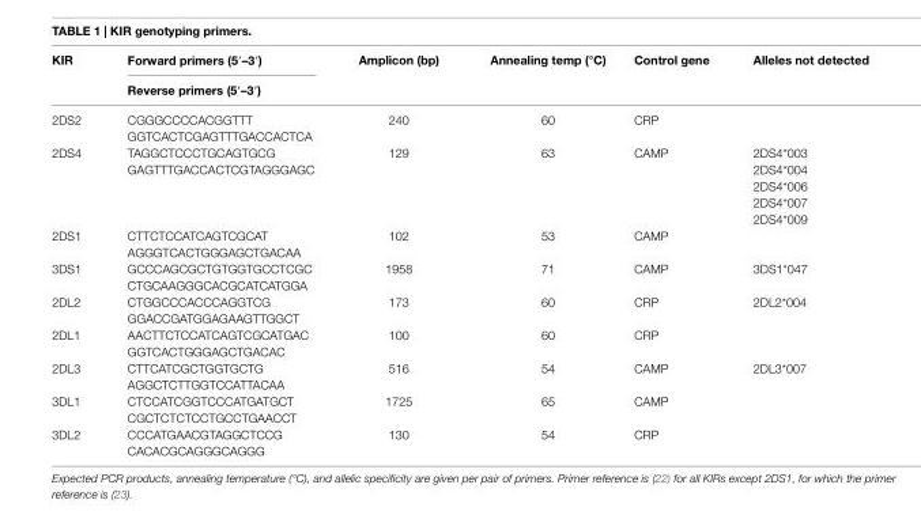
<table><thead><tr><td rowspan="2">Kir</td><td rowspan="2">Forward primers (5′–3′) reverse primers (5′–3′)</td><td rowspan="2">amplicon (bp)</td><td rowspan="2">annealing temp (°c)</td><td rowspan="2">control gene</td><td rowspan="2">alleles not detected</td></tr><tr></tr></thead><tbody><tr><td rowspan="2">2DS2</td><td>CGGGCCCCACGGTTT</td><td rowspan="2">240</td><td rowspan="2">60</td><td rowspan="2">CRP</td><td rowspan="2"></td></tr><tr><td>GGTCACTCGAGTTTGACCACTCA</td></tr><tr><td rowspan="5">2DS4</td><td>TAGGCTCCCTGCAGTGCG</td><td rowspan="5">129</td><td rowspan="5">63</td><td rowspan="5">CAMP</td><td>2DS4*003</td></tr><tr><td>GAGTTTGACCACTCGTAGGGAGC</td><td>2DS4*004</td></tr><tr><td></td><td>2DS4*006</td></tr><tr><td></td><td>2DS4*007</td></tr><tr><td></td><td>2DS4*009</td></tr><tr><td rowspan="2">2DS1</td><td>CTTCTCCATCAGTCGCAT</td><td rowspan="2">102</td><td rowspan="2">53</td><td rowspan="2">CAMP</td><td rowspan="2"></td></tr><tr><td>AGGGTCACTGGGAGCTGACAA</td></tr><tr><td rowspan="2">3DS1</td><td>GCCCAGCGCTGTGGTGCCTCGC</td><td rowspan="2">1958</td><td rowspan="2">71</td><td rowspan="2">CAMP</td><td rowspan="2">3DS1*047</td></tr><tr><td>CTGCAAGGGCACGCATCATGGA</td></tr><tr><td rowspan="2">2DL2</td><td>CTGGCCCACCCAGGTCG</td><td rowspan="2">173</td><td rowspan="2">60</td><td rowspan="2">CRP</td><td rowspan="2">2DL2*004</td></tr><tr><td>GGACCGATGGAGAAGTTGGCT</td></tr><tr><td rowspan="2">2DL1</td><td>AACTTCTCCATCAGTCGCATGAC</td><td rowspan="2">100</td><td rowspan="2">60</td><td rowspan="2">CRP</td><td rowspan="2"></td></tr><tr><td>GGTCACTGGGAGCTGACAC</td></tr><tr><td rowspan="2">2DL3</td><td>CTTCATCGCTGGTGCTG</td><td rowspan="2">516</td><td rowspan="2">54</td><td rowspan="2">CAMP</td><td rowspan="2">2DL3*007</td></tr><tr><td>AGGCTCTTGGTCCATTACAA</td></tr><tr><td rowspan="2">3DL1</td><td>CTCCATCGGTCCCATGATGCT</td><td rowspan="2">1725</td><td rowspan="2">65</td><td rowspan="2">CAMP</td><td rowspan="2"></td></tr><tr><td>CGCTCTCTCCTGCCTGAACCT</td></tr><tr><td rowspan="2">3DL2</td><td>CCCATGAACGTAGGCTCCG</td><td rowspan="2">130</td><td rowspan="2">54</td><td rowspan="2">CRP</td><td rowspan="2"></td></tr><tr><td>CACACGCAGGGCAGGG</td></tr></tbody></table>